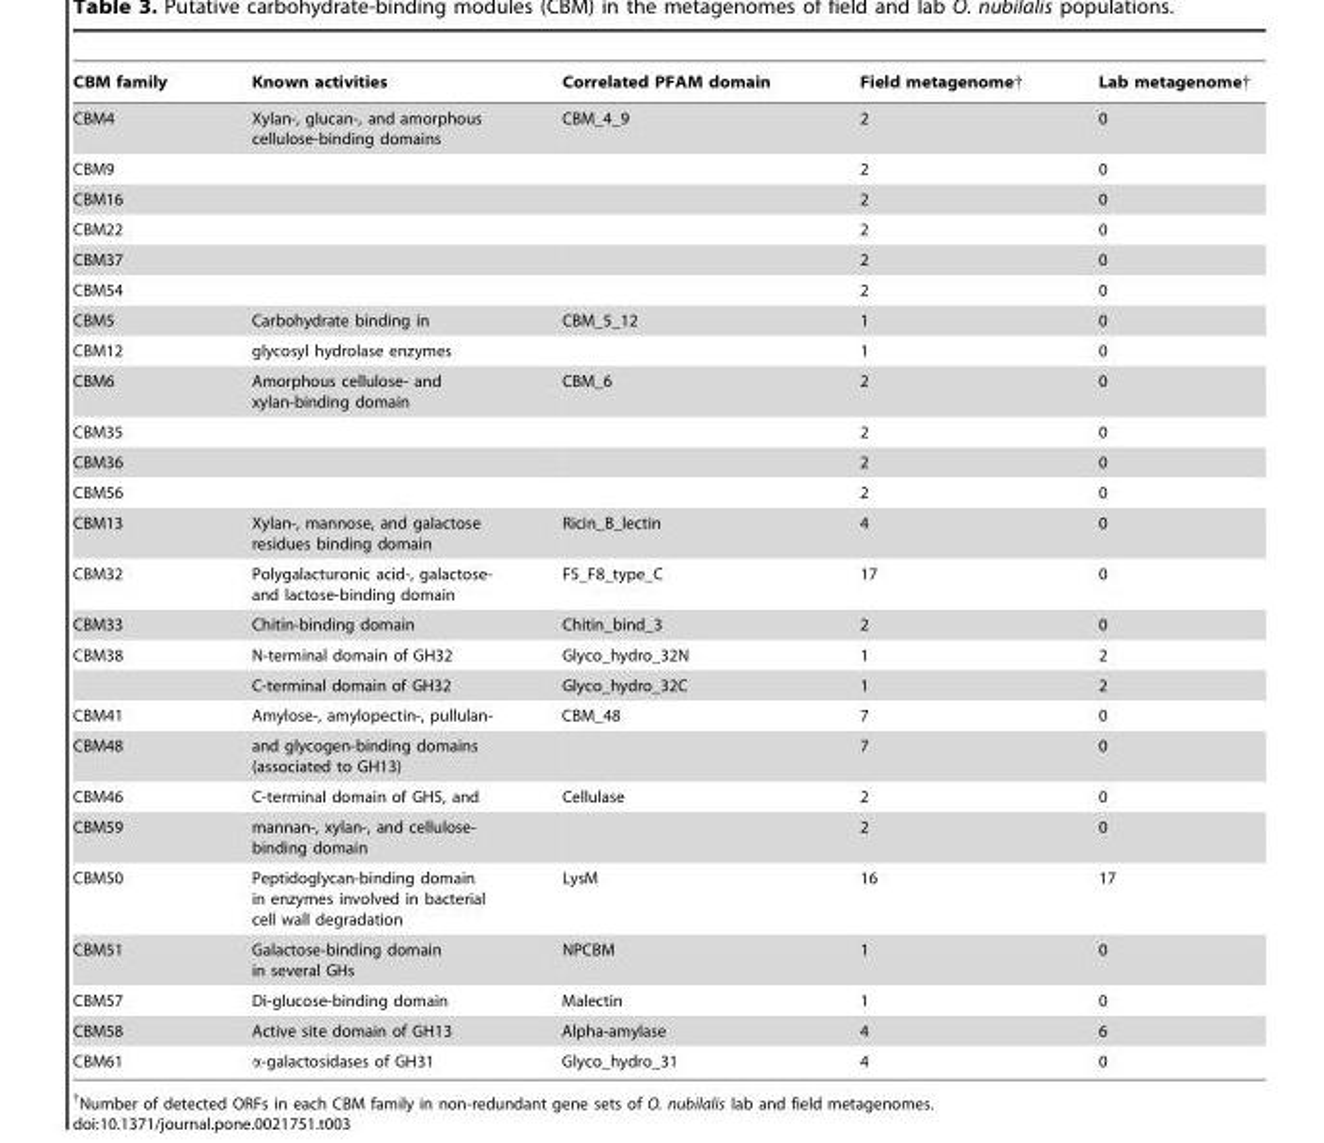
<table><thead><tr><td>CBM family</td><td>Known activities</td><td>Correlated PFAM domain</td><td>Field metagenome†</td><td>Lab metagenome†</td></tr></thead><tbody><tr><td>CBM4</td><td>Xylan-, glucan-, and amorphous cellulose-binding domains</td><td>CBM_4_9</td><td>2</td><td>0</td></tr><tr><td>CBM9</td><td></td><td></td><td>2</td><td>0</td></tr><tr><td>CBM16</td><td></td><td></td><td>2</td><td>0</td></tr><tr><td>CBM22</td><td></td><td></td><td>2</td><td>0</td></tr><tr><td>CBM37</td><td></td><td></td><td>2</td><td>0</td></tr><tr><td>CBM54</td><td></td><td></td><td>2</td><td>0</td></tr><tr><td>CBM5</td><td>Carbohydrate binding in</td><td>CBM_5_12</td><td>1</td><td>0</td></tr><tr><td>CBM12</td><td>glycosyl hydrolase enzymes</td><td></td><td>1</td><td>0</td></tr><tr><td>CBM6</td><td>Amorphous cellulose- and xylan-binding domain</td><td>CBM_6</td><td>2</td><td>0</td></tr><tr><td>CBM35</td><td></td><td></td><td>2</td><td>0</td></tr><tr><td>CBM36</td><td></td><td></td><td>2</td><td>0</td></tr><tr><td>CBM56</td><td></td><td></td><td>2</td><td>0</td></tr><tr><td>CBM13</td><td>Xylan-, mannose, and galactose residues binding domain</td><td>Ricin_B_lectin</td><td>4</td><td>0</td></tr><tr><td>CBM32</td><td>Polygalacturonic acid-, galactose- and lactose-binding domain</td><td>F5_F8_type_C</td><td>17</td><td>0</td></tr><tr><td>CBM33</td><td>Chitin-binding domain</td><td>Chitin_bind_3</td><td>2</td><td>0</td></tr><tr><td rowspan="2">CBM38</td><td>N-terminal domain of GH32</td><td>Glyco_hydro_32N</td><td>1</td><td>2</td></tr><tr><td>C-terminal domain of GH32</td><td>Glyco_hydro_32C</td><td>1</td><td>2</td></tr><tr><td>CBM41</td><td>Amylose-, amylopectin-, pullulan-</td><td>CBM_48</td><td>7</td><td>0</td></tr><tr><td>CBM48</td><td>and glycogen-binding domains (associated to GH13)</td><td></td><td>7</td><td>0</td></tr><tr><td>CBM46</td><td>C-terminal domain of GH5, and</td><td>Cellulase</td><td>2</td><td>0</td></tr><tr><td>CBM59</td><td>mannan-, xylan-, and cellulose- binding domain</td><td></td><td>2</td><td>0</td></tr><tr><td>CBM50</td><td>Peptidoglycan-binding domain in enzymes involved in bacterial cell wall degradation</td><td>LysM</td><td>16</td><td>17</td></tr><tr><td>CBM51</td><td>Galactose-binding domain in several GHs</td><td>NPCBM</td><td>1</td><td>0</td></tr><tr><td>CBM57</td><td>Di-glucose-binding domain</td><td>Malectin</td><td>1</td><td>0</td></tr><tr><td>CBM58</td><td>Active site domain of GH13</td><td>Alpha-amylase</td><td>4</td><td>6</td></tr><tr><td>CBM61</td><td>α-galactosidases of GH31</td><td>Glyco_hydro_31</td><td>4</td><td>0</td></tr></tbody></table>